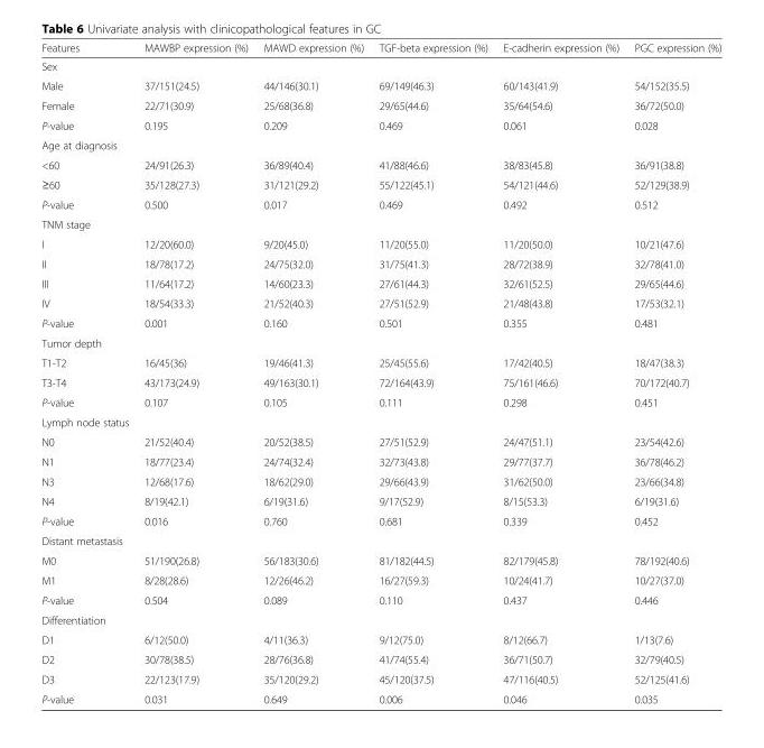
<table><thead><tr><td>Features</td><td>MAWBP expression (%)</td><td>MAWD expression (%)</td><td>TGF-beta expression (%)</td><td>E-cadherin expression (%)</td><td>PGC expression (%)</td></tr></thead><tbody><tr><td colspan="6">Sex</td></tr><tr><td>Male</td><td>37/151(24.5)</td><td>44/146(30.1)</td><td>69/149(46.3)</td><td>60/143(41.9)</td><td>54/152(35.5)</td></tr><tr><td>Female</td><td>22/71(30.9)</td><td>25/68(36.8)</td><td>29/65(44.6)</td><td>35/64(54.6)</td><td>36/72(50.0)</td></tr><tr><td>P-value</td><td>0.195</td><td>0.209</td><td>0.469</td><td>0.061</td><td>0.028</td></tr><tr><td colspan="6">Age at diagnosis</td></tr><tr><td>&lt;60</td><td>24/91(26.3)</td><td>36/89(40.4)</td><td>41/88(46.6)</td><td>38/83(45.8)</td><td>36/91(38.8)</td></tr><tr><td>≥60</td><td>35/128(27.3)</td><td>31/121(29.2)</td><td>55/122(45.1)</td><td>54/121(44.6)</td><td>52/129(38.9)</td></tr><tr><td>P-value</td><td>0.500</td><td>0.017</td><td>0.469</td><td>0.492</td><td>0.512</td></tr><tr><td colspan="6">TNM stage</td></tr><tr><td>I</td><td>12/20(60.0)</td><td>9/20(45.0)</td><td>11/20(55.0)</td><td>11/20(50.0)</td><td>10/21(47.6)</td></tr><tr><td>II</td><td>18/78(17.2)</td><td>24/75(32.0)</td><td>31/75(41.3)</td><td>28/72(38.9)</td><td>32/78(41.0)</td></tr><tr><td>III</td><td>11/64(17.2)</td><td>14/60(23.3)</td><td>27/61(44.3)</td><td>32/61(52.5)</td><td>29/65(44.6)</td></tr><tr><td>IV</td><td>18/54(33.3)</td><td>21/52(40.3)</td><td>27/51(52.9)</td><td>21/48(43.8)</td><td>17/53(32.1)</td></tr><tr><td>P-value</td><td>0.001</td><td>0.160</td><td>0.501</td><td>0.355</td><td>0.481</td></tr><tr><td colspan="6">Tumor depth</td></tr><tr><td>T1-T2</td><td>16/45(36)</td><td>19/46(41.3)</td><td>25/45(55.6)</td><td>17/42(40.5)</td><td>18/47(38.3)</td></tr><tr><td>T3-T4</td><td>43/173(24.9)</td><td>49/163(30.1)</td><td>72/164(43.9)</td><td>75/161(46.6)</td><td>70/172(40.7)</td></tr><tr><td>P-value</td><td>0.107</td><td>0.105</td><td>0.111</td><td>0.298</td><td>0.451</td></tr><tr><td colspan="6">Lymph node status</td></tr><tr><td>N0</td><td>21/52(40.4)</td><td>20/52(38.5)</td><td>27/51(52.9)</td><td>24/47(51.1)</td><td>23/54(42.6)</td></tr><tr><td>N1</td><td>18/77(23.4)</td><td>24/74(32.4)</td><td>32/73(43.8)</td><td>29/77(37.7)</td><td>36/78(46.2)</td></tr><tr><td>N3</td><td>12/68(17.6)</td><td>18/62(29.0)</td><td>29/66(43.9)</td><td>31/62(50.0)</td><td>23/66(34.8)</td></tr><tr><td>N4</td><td>8/19(42.1)</td><td>6/19(31.6)</td><td>9/17(52.9)</td><td>8/15(53.3)</td><td>6/19(31.6)</td></tr><tr><td>P-value</td><td>0.016</td><td>0.760</td><td>0.681</td><td>0.339</td><td>0.452</td></tr><tr><td colspan="6">Distant metastasis</td></tr><tr><td>M0</td><td>51/190(26.8)</td><td>56/183(30.6)</td><td>81/182(44.5)</td><td>82/179(45.8)</td><td>78/192(40.6)</td></tr><tr><td>M1</td><td>8/28(28.6)</td><td>12/26(46.2)</td><td>16/27(59.3)</td><td>10/24(41.7)</td><td>10/27(37.0)</td></tr><tr><td>P-value</td><td>0.504</td><td>0.089</td><td>0.110</td><td>0.437</td><td>0.446</td></tr><tr><td colspan="6">Differentiation</td></tr><tr><td>D1</td><td>6/12(50.0)</td><td>4/11(36.3)</td><td>9/12(75.0)</td><td>8/12(66.7)</td><td>1/13(7.6)</td></tr><tr><td>D2</td><td>30/78(38.5)</td><td>28/76(36.8)</td><td>41/74(55.4)</td><td>36/71(50.7)</td><td>32/79(40.5)</td></tr><tr><td>D3</td><td>22/123(17.9)</td><td>35/120(29.2)</td><td>45/120(37.5)</td><td>47/116(40.5)</td><td>52/125(41.6)</td></tr><tr><td>P-value</td><td>0.031</td><td>0.649</td><td>0.006</td><td>0.046</td><td>0.035</td></tr></tbody></table>